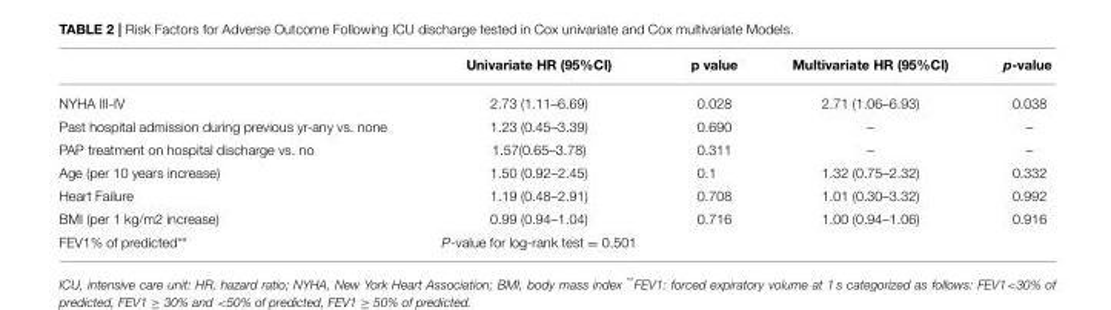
<table><thead><tr><td></td><td>Univariate HR (95%CI)</td><td>p value</td><td>Multivariate HR (95%CI)</td><td>p-value</td></tr></thead><tbody><tr><td>NYHA III-IV</td><td>2.73 (1.11–6.69)</td><td>0.028</td><td>2.71 (1.06–6.93)</td><td>0.038</td></tr><tr><td>Past hospital admission during previous yr-any vs. none</td><td>1.23 (0.45–3.39)</td><td>0.690</td><td>–</td><td>–</td></tr><tr><td>PAP treatment on hospital discharge vs. no</td><td>1.57(0.65–3.78)</td><td>0.311</td><td>–</td><td>–</td></tr><tr><td>Age (per 10 years increase)</td><td>1.50 (0.92–2.45)</td><td>0.1</td><td>1.32 (0.75–2.32)</td><td>0.332</td></tr><tr><td>Heart Failure</td><td>1.19 (0.48–2.91)</td><td>0.708</td><td>1.01 (0.30–3.32)</td><td>0.992</td></tr><tr><td>BMI (per 1 kg/m2 increase)</td><td>0.99 (0.94–1.04)</td><td>0.716</td><td>1.00 (0.94–1.06)</td><td>0.916</td></tr><tr><td>FEV1% of predicted**</td><td>P-value for log-rank test = 0.501</td><td></td><td></td><td></td></tr></tbody></table>